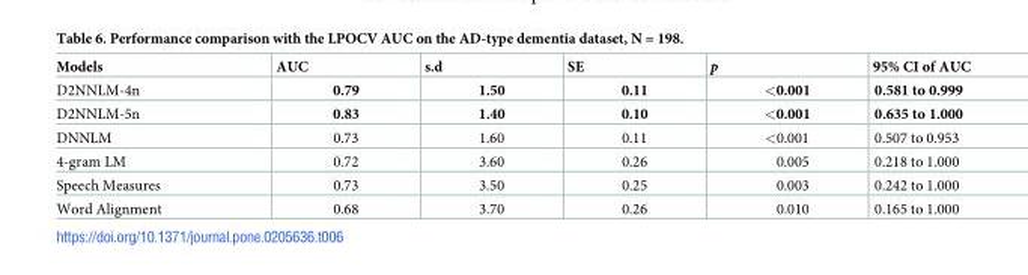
<table><thead><tr><td>Models</td><td>AUC</td><td>s.d</td><td>SE</td><td>p</td><td>95% CI of AUC</td></tr></thead><tbody><tr><td>D2NNLM-4n</td><td>0.79</td><td>1.50</td><td>0.11</td><td>&lt;0.001</td><td>0.581 to 0.999</td></tr><tr><td>D2NNLM-5n</td><td>0.83</td><td>1.40</td><td>0.10</td><td>&lt;0.001</td><td>0.635 to 1.000</td></tr><tr><td>DNNLM</td><td>0.73</td><td>1.60</td><td>0.11</td><td>&lt;0.001</td><td>0.507 to 0.953</td></tr><tr><td>4-gram LM</td><td>0.72</td><td>3.60</td><td>0.26</td><td>0.005</td><td>0.218 to 1.000</td></tr><tr><td>Speech Measures</td><td>0.73</td><td>3.50</td><td>0.25</td><td>0.003</td><td>0.242 to 1.000</td></tr><tr><td>Word Alignment</td><td>0.68</td><td>3.70</td><td>0.26</td><td>0.010</td><td>0.165 to 1.000</td></tr></tbody></table>